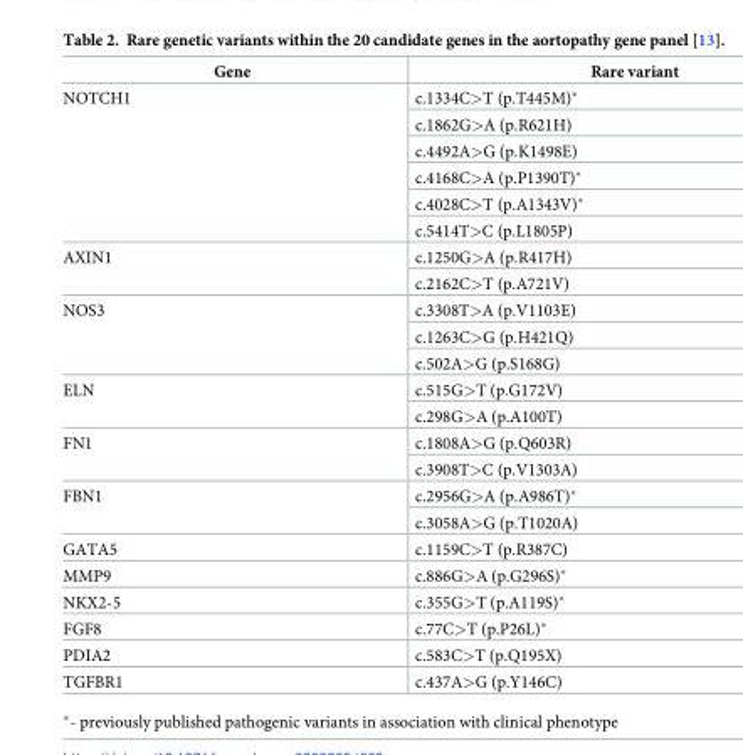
<table><thead><tr><td>Gene</td><td>Rare variant</td></tr></thead><tbody><tr><td rowspan="6">NOTCH1</td><td>c.1334C&gt;T (p.T445M)*</td></tr><tr><td>c.1862G&gt;A (p.R621H)</td></tr><tr><td>c.4492A&gt;G (p.K1498E)</td></tr><tr><td>c.4168C&gt;A (p.P1390T)*</td></tr><tr><td>c.4028C&gt;T (p.A1343V)*</td></tr><tr><td>c.5414T&gt;C (p.L1805P)</td></tr><tr><td rowspan="2">AXIN1</td><td>c.1250G&gt;A (p.R417H)</td></tr><tr><td>c.2162C&gt;T (p.A721V)</td></tr><tr><td rowspan="3">NOS3</td><td>c.3308T&gt;A (p.V1103E)</td></tr><tr><td>c.1263C&gt;G (p.H421Q)</td></tr><tr><td>c.502A&gt;G (p.S168G)</td></tr><tr><td rowspan="2">ELN</td><td>c.515G&gt;T (p.G172V)</td></tr><tr><td>c.298G&gt;A (p.A100T)</td></tr><tr><td rowspan="2">FN1</td><td>c.1808A&gt;G (p.Q603R)</td></tr><tr><td>c.3908T&gt;C (p.V1303A)</td></tr><tr><td rowspan="2">FBN1</td><td>c.2956G&gt;A (p.A986T)*</td></tr><tr><td>c.3058A&gt;G (p.T1020A)</td></tr><tr><td>GATA5</td><td>c.1159C&gt;T (p.R387C)</td></tr><tr><td>MMP9</td><td>c.886G&gt;A (p.G296S)*</td></tr><tr><td>NKX2-5</td><td>c.355G&gt;T (p.A119S)*</td></tr><tr><td>FGF8</td><td>c.77C&gt;T (p.P26L)*</td></tr><tr><td>PDIA2</td><td>c.583C&gt;T (p.Q195X)</td></tr><tr><td>TGFBR1</td><td>c.437A&gt;G (p.Y146C)</td></tr></tbody></table>